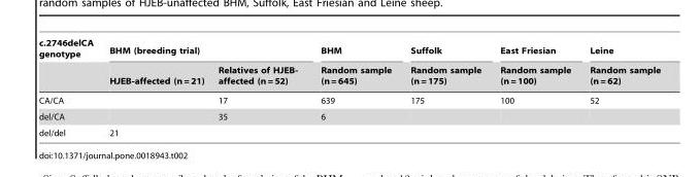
<table><thead><tr><td rowspan="2">c.2746delCA genotype</td><td colspan="2">BHM (breeding trial)</td><td rowspan="2">BHM Random sample (n = 645)</td><td rowspan="2">Suffolk Random sample (n = 175)</td><td rowspan="2">East Friesian Random sample (n = 100)</td><td rowspan="2">Leine Random sample (n = 62)</td></tr><tr><td>HJEB-affected (n = 21)</td><td>Relatives of HJEB- affected (n = 52)</td></tr></thead><tbody><tr><td>CA/CA</td><td></td><td>17</td><td>639</td><td>175</td><td>100</td><td>52</td></tr><tr><td>del/CA</td><td></td><td>35</td><td>6</td><td></td><td></td><td></td></tr><tr><td>del/del</td><td>21</td><td></td><td></td><td></td><td></td><td></td></tr></tbody></table>